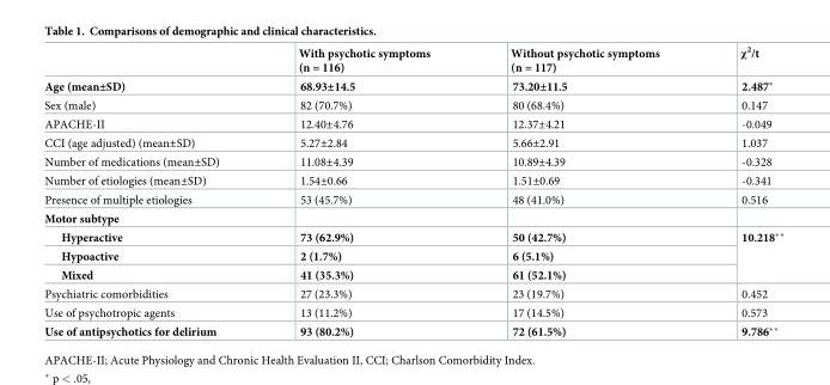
<table><thead><tr><td></td><td>With psychotic symptoms (n = 116)</td><td>Without psychotic symptoms (n = 117)</td><td>χ<sup>2</sup>/t</td></tr></thead><tbody><tr><td>Age (mean±SD)</td><td>68.93±14.5</td><td>73.20±11.5</td><td>2.487*</td></tr><tr><td>Sex (male)</td><td>82 (70.7%)</td><td>80 (68.4%)</td><td>0.147</td></tr><tr><td>APACHE-II</td><td>12.40±4.76</td><td>12.37±4.21</td><td>-0.049</td></tr><tr><td>CCI (age adjusted) (mean±SD)</td><td>5.27±2.84</td><td>5.66±2.91</td><td>1.037</td></tr><tr><td>Number of medications (mean±SD)</td><td>11.08±4.39</td><td>10.89±4.39</td><td>-0.328</td></tr><tr><td>Number of etiologies (mean±SD)</td><td>1.54±0.66</td><td>1.51±0.69</td><td>-0.341</td></tr><tr><td>Presence of multiple etiologies</td><td>53 (45.7%)</td><td>48 (41.0%)</td><td>0.516</td></tr><tr><td colspan="4">Motor subtype</td></tr><tr><td>Hyperactive</td><td>73 (62.9%)</td><td>50 (42.7%)</td><td rowspan="3">10.218**</td></tr><tr><td>Hypoactive</td><td>2 (1.7%)</td><td>6 (5.1%)</td></tr><tr><td>Mixed</td><td>41 (35.3%)</td><td>61 (52.1%)</td></tr><tr><td>Psychiatric comorbidities</td><td>27 (23.3%)</td><td>23 (19.7%)</td><td>0.452</td></tr><tr><td>Use of psychotropic agents</td><td>13 (11.2%)</td><td>17 (14.5%)</td><td>0.573</td></tr><tr><td>Use of antipsychotics for delirium</td><td>93 (80.2%)</td><td>72 (61.5%)</td><td>9.786**</td></tr></tbody></table>